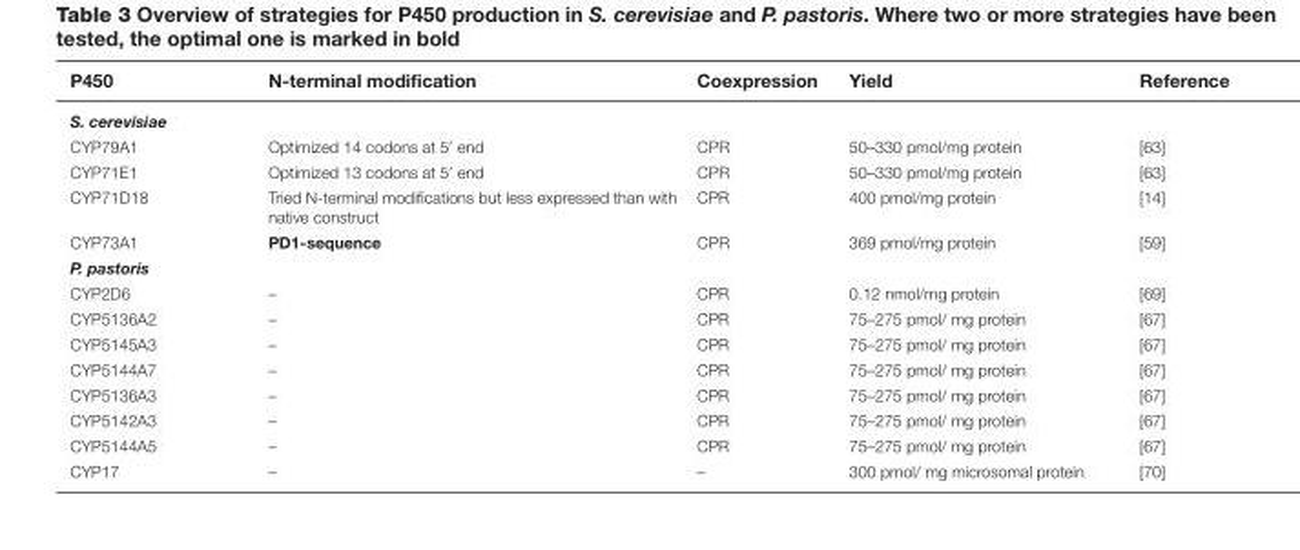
<table><thead><tr><td>P450</td><td>N-terminal modification</td><td>Coexpression</td><td>Yield</td><td>Reference</td></tr></thead><tbody><tr><td colspan="5">S. cerevisiae</td></tr><tr><td>CYP79A1</td><td>Optimized 14 codons at 5′ end</td><td>CPR</td><td>50–330 pmol/mg protein</td><td>[63]</td></tr><tr><td>CYP71E1</td><td>Optimized 13 codons at 5′ end</td><td>CPR</td><td>50–330 pmol/mg protein</td><td>[63]</td></tr><tr><td>CYP71D18</td><td>Tried N-terminal modifications but less expressed than with native construct</td><td>CPR</td><td>400 pmol/mg protein</td><td>[14]</td></tr><tr><td>CYP73A1</td><td>PD1-sequence</td><td>CPR</td><td>369 pmol/mg protein</td><td>[59]</td></tr><tr><td colspan="5">P. pastoris</td></tr><tr><td>CYP2D6</td><td>–</td><td>CPR</td><td>0.12 nmol/mg protein</td><td>[69]</td></tr><tr><td>CYP5136A2</td><td>–</td><td>CPR</td><td>75–275 pmol/ mg protein</td><td>[67]</td></tr><tr><td>CYP5145A3</td><td>–</td><td>CPR</td><td>75–275 pmol/ mg protein</td><td>[67]</td></tr><tr><td>CYP5144A7</td><td>–</td><td>CPR</td><td>75–275 pmol/ mg protein</td><td>[67]</td></tr><tr><td>CYP5136A3</td><td>–</td><td>CPR</td><td>75–275 pmol/ mg protein</td><td>[67]</td></tr><tr><td>CYP5142A3</td><td>–</td><td>CPR</td><td>75–275 pmol/ mg protein</td><td>[67]</td></tr><tr><td>CYP5144A5</td><td>–</td><td>CPR</td><td>75–275 pmol/ mg protein</td><td>[67]</td></tr><tr><td>CYP17</td><td>–</td><td>–</td><td>300 pmol/ mg microsomal protein</td><td>[70]</td></tr></tbody></table>